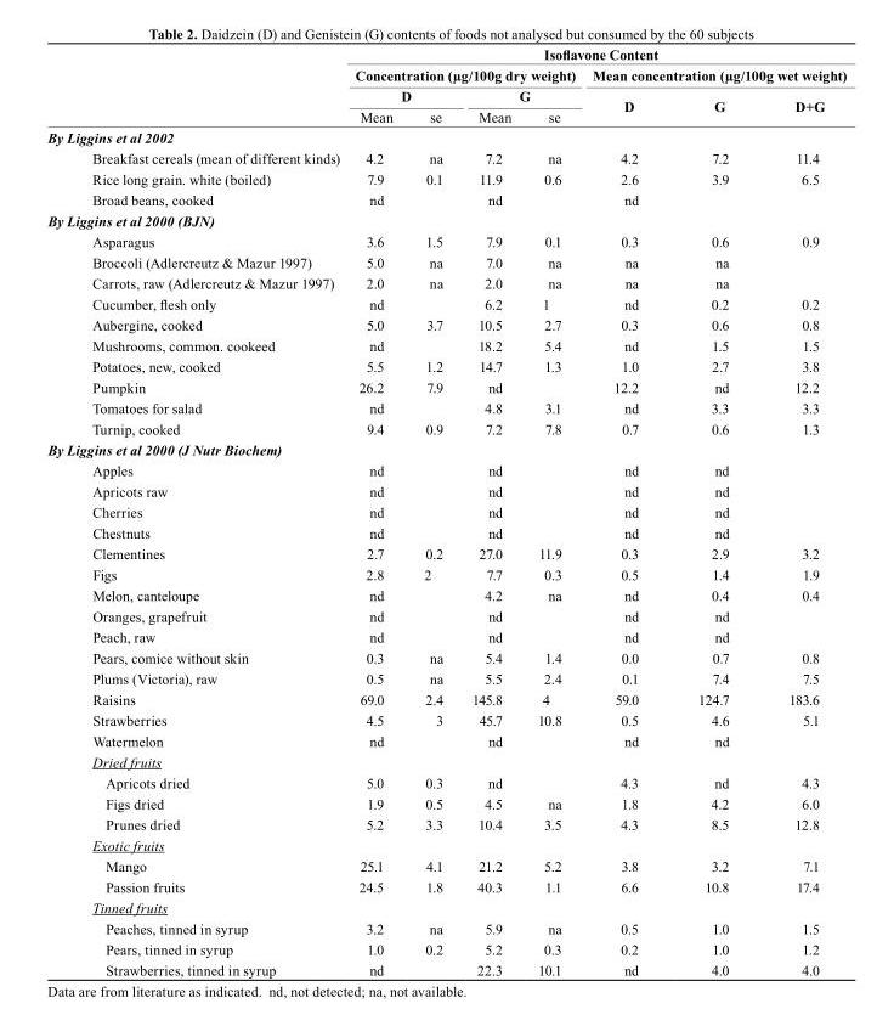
<table><thead><tr><td rowspan="4"></td><td colspan="7">Isoflavone Content</td></tr><tr><td colspan="4">Concentration (µg/100g dry weight)</td><td colspan="3">Mean concentration (µg/100g wet weight)</td></tr><tr><td colspan="2">D</td><td colspan="2">G</td><td rowspan="2">D</td><td rowspan="2">G</td><td rowspan="2">D+G</td></tr><tr><td>Mean</td><td>se</td><td>Mean</td><td>se</td></tr></thead><tbody><tr><td colspan="8">By Liggins et al 2002</td></tr><tr><td>Breakfast cereals (mean of different kinds)</td><td>4.2</td><td>na</td><td>7.2</td><td>na</td><td>4.2</td><td>7.2</td><td>11.4</td></tr><tr><td>Rice long grain. white (boiled)</td><td>7.9</td><td>0.1</td><td>11.9</td><td>0.6</td><td>2.6</td><td>3.9</td><td>6.5</td></tr><tr><td>Broad beans, cooked</td><td>nd</td><td></td><td>nd</td><td></td><td>nd</td><td></td><td></td></tr><tr><td colspan="8">By Liggins et al 2000 (BJN)</td></tr><tr><td>Asparagus</td><td>3.6</td><td>1.5</td><td>7.9</td><td>0.1</td><td>0.3</td><td>0.6</td><td>0.9</td></tr><tr><td>Broccoli (Adlercreutz &amp; Mazur 1997)</td><td>5.0</td><td>na</td><td>7.0</td><td>na</td><td>na</td><td>na</td><td></td></tr><tr><td>Carrots, raw (Adlercreutz &amp; Mazur 1997)</td><td>2.0</td><td>na</td><td>2.0</td><td>na</td><td>na</td><td>na</td><td></td></tr><tr><td>Cucumber, flesh only</td><td>nd</td><td></td><td>6.2</td><td>1</td><td>nd</td><td>0.2</td><td>0.2</td></tr><tr><td>Aubergine, cooked</td><td>5.0</td><td>3.7</td><td>10.5</td><td>2.7</td><td>0.3</td><td>0.6</td><td>0.8</td></tr><tr><td>Mushrooms, common. cookeed</td><td>nd</td><td></td><td>18.2</td><td>5.4</td><td>nd</td><td>1.5</td><td>1.5</td></tr><tr><td>Potatoes, new, cooked</td><td>5.5</td><td>1.2</td><td>14.7</td><td>1.3</td><td>1.0</td><td>2.7</td><td>3.8</td></tr><tr><td>Pumpkin</td><td>26.2</td><td>7.9</td><td>nd</td><td></td><td>12.2</td><td>nd</td><td>12.2</td></tr><tr><td>Tomatoes for salad</td><td>nd</td><td></td><td>4.8</td><td>3.1</td><td>nd</td><td>3.3</td><td>3.3</td></tr><tr><td>Turnip, cooked</td><td>9.4</td><td>0.9</td><td>7.2</td><td>7.8</td><td>0.7</td><td>0.6</td><td>1.3</td></tr><tr><td colspan="8">By Liggins et al 2000 (J Nutr Biochem)</td></tr><tr><td>Apples</td><td>nd</td><td></td><td>nd</td><td></td><td>nd</td><td>nd</td><td></td></tr><tr><td>Apricots raw</td><td>nd</td><td></td><td>nd</td><td></td><td>nd</td><td>nd</td><td></td></tr><tr><td>Cherries</td><td>nd</td><td></td><td>nd</td><td></td><td>nd</td><td>nd</td><td></td></tr><tr><td>Chestnuts</td><td>nd</td><td></td><td>nd</td><td></td><td>nd</td><td>nd</td><td></td></tr><tr><td>Clementines</td><td>2.7</td><td>0.2</td><td>27.0</td><td>11.9</td><td>0.3</td><td>2.9</td><td>3.2</td></tr><tr><td>Figs</td><td>2.8</td><td>2</td><td>7.7</td><td>0.3</td><td>0.5</td><td>1.4</td><td>1.9</td></tr><tr><td>Melon, canteloupe</td><td>nd</td><td></td><td>4.2</td><td>na</td><td>nd</td><td>0.4</td><td>0.4</td></tr><tr><td>Oranges, grapefruit</td><td>nd</td><td></td><td>nd</td><td></td><td>nd</td><td>nd</td><td></td></tr><tr><td>Peach, raw</td><td>nd</td><td></td><td>nd</td><td></td><td>nd</td><td>nd</td><td></td></tr><tr><td>Pears, comice without skin</td><td>0.3</td><td>na</td><td>5.4</td><td>1.4</td><td>0.0</td><td>0.7</td><td>0.8</td></tr><tr><td>Plums (Victoria), raw</td><td>0.5</td><td>na</td><td>5.5</td><td>2.4</td><td>0.1</td><td>7.4</td><td>7.5</td></tr><tr><td>Raisins</td><td>69.0</td><td>2.4</td><td>145.8</td><td>4</td><td>59.0</td><td>124.7</td><td>183.6</td></tr><tr><td>Strawberries</td><td>4.5</td><td>3</td><td>45.7</td><td>10.8</td><td>0.5</td><td>4.6</td><td>5.1</td></tr><tr><td>Watermelon</td><td>nd</td><td></td><td>nd</td><td></td><td>nd</td><td>nd</td><td></td></tr><tr><td colspan="8">Dried fruits</td></tr><tr><td>Apricots dried</td><td>5.0</td><td>0.3</td><td>nd</td><td></td><td>4.3</td><td>nd</td><td>4.3</td></tr><tr><td>Figs dried</td><td>1.9</td><td>0.5</td><td>4.5</td><td>na</td><td>1.8</td><td>4.2</td><td>6.0</td></tr><tr><td>Prunes dried</td><td>5.2</td><td>3.3</td><td>10.4</td><td>3.5</td><td>4.3</td><td>8.5</td><td>12.8</td></tr><tr><td colspan="8">Exotic fruits</td></tr><tr><td>Mango</td><td>25.1</td><td>4.1</td><td>21.2</td><td>5.2</td><td>3.8</td><td>3.2</td><td>7.1</td></tr><tr><td>Passion fruits</td><td>24.5</td><td>1.8</td><td>40.3</td><td>1.1</td><td>6.6</td><td>10.8</td><td>17.4</td></tr><tr><td colspan="8">Tinned fruits</td></tr><tr><td>Peaches, tinned in syrup</td><td>3.2</td><td>na</td><td>5.9</td><td>na</td><td>0.5</td><td>1.0</td><td>1.5</td></tr><tr><td>Pears, tinned in syrup</td><td>1.0</td><td>0.2</td><td>5.2</td><td>0.3</td><td>0.2</td><td>1.0</td><td>1.2</td></tr><tr><td>Strawberries, tinned in syrup</td><td>nd</td><td></td><td>22.3</td><td>10.1</td><td>nd</td><td>4.0</td><td>4.0</td></tr></tbody></table>